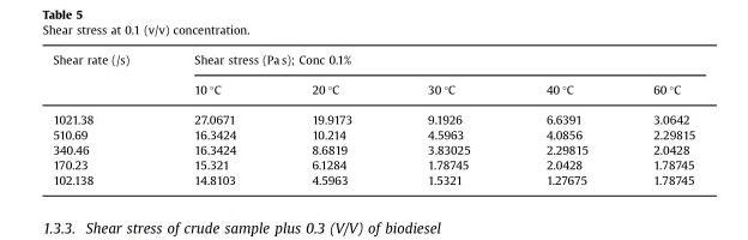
<table><thead><tr><td rowspan="2">Shear rate (/s)</td><td colspan="5">Shear stress (Pa s); Conc 0.1%</td></tr><tr><td>10 °C</td><td>20 °C</td><td>30 °C</td><td>40 °C</td><td>60 °C</td></tr></thead><tbody><tr><td>1021.38</td><td>27.0671</td><td>19.9173</td><td>9.1926</td><td>6.6391</td><td>3.0642</td></tr><tr><td>510.69</td><td>16.3424</td><td>10.214</td><td>4.5963</td><td>4.0856</td><td>2.29815</td></tr><tr><td>340.46</td><td>16.3424</td><td>8.6819</td><td>3.83025</td><td>2.29815</td><td>2.0428</td></tr><tr><td>170.23</td><td>15.321</td><td>6.1284</td><td>1.78745</td><td>2.0428</td><td>1.78745</td></tr><tr><td>102.138</td><td>14.8103</td><td>4.5963</td><td>1.5321</td><td>1.27675</td><td>1.78745</td></tr></tbody></table>